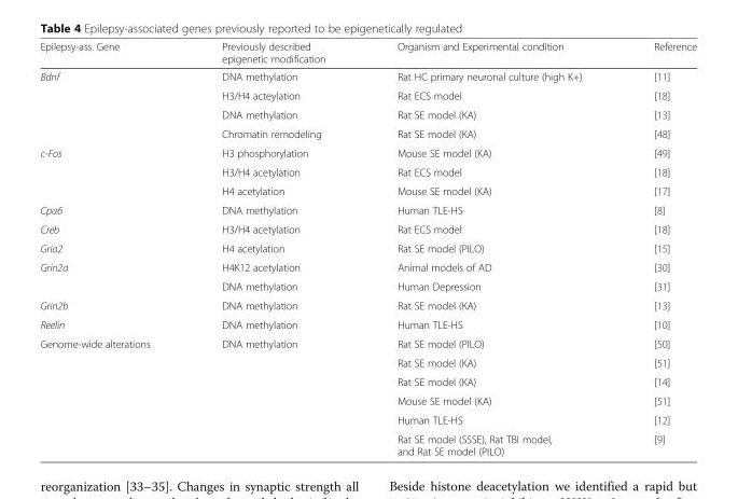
<table><thead><tr><td>Epilepsy-ass. Gene</td><td>Previously described epigenetic modification</td><td>Organism and Experimental condition</td><td>Reference</td></tr></thead><tbody><tr><td rowspan="4">Bdnf</td><td>DNA methylation</td><td>Rat HC primary neuronal culture (high K+)</td><td>[11]</td></tr><tr><td>H3/H4 acteylation</td><td>Rat ECS model</td><td>[18]</td></tr><tr><td>DNA methylation</td><td>Rat SE model (KA)</td><td>[13]</td></tr><tr><td>Chromatin remodeling</td><td>Rat SE model (KA)</td><td>[48]</td></tr><tr><td rowspan="3">c-Fos</td><td>H3 phosphorylation</td><td>Mouse SE model (KA)</td><td>[49]</td></tr><tr><td>H3/H4 acetylation</td><td>Rat ECS model</td><td>[18]</td></tr><tr><td>H4 acetylation</td><td>Mouse SE model (KA)</td><td>[17]</td></tr><tr><td>Cpa6</td><td>DNA methylation</td><td>Human TLE-HS</td><td>[8]</td></tr><tr><td>Creb</td><td>H3/H4 acetylation</td><td>Rat ECS model</td><td>[18]</td></tr><tr><td>Gria2</td><td>H4 acetylation</td><td>Rat SE model (PILO)</td><td>[15]</td></tr><tr><td rowspan="2">Grin2a</td><td>H4K12 acetylation</td><td>Animal models of AD</td><td>[30]</td></tr><tr><td>DNA methylation</td><td>Human Depression</td><td>[31]</td></tr><tr><td>Grin2b</td><td>DNA methylation</td><td>Rat SE model (KA)</td><td>[13]</td></tr><tr><td>Reelin</td><td>DNA methylation</td><td>Human TLE-HS</td><td>[10]</td></tr><tr><td rowspan="6">Genome-wide alterations</td><td rowspan="6">DNA methylation</td><td>Rat SE model (PILO)</td><td>[50]</td></tr><tr><td>Rat SE model (KA)</td><td>[51]</td></tr><tr><td>Rat SE model (KA)</td><td>[14]</td></tr><tr><td>Mouse SE model (KA)</td><td>[51]</td></tr><tr><td>Human TLE-HS</td><td>[12]</td></tr><tr><td>Rat SE model (SSSE), Rat TBI model, and Rat SE model (PILO)</td><td>[9]</td></tr></tbody></table>